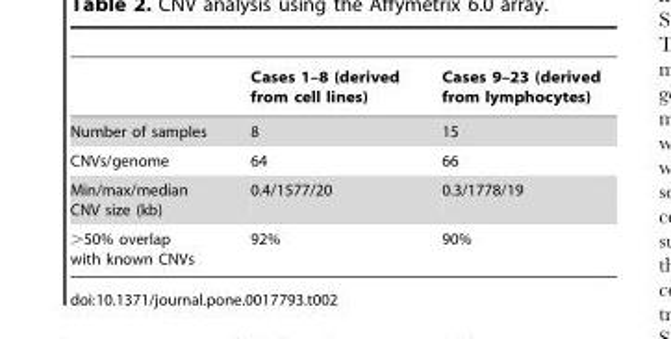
<table><thead><tr><td></td><td>Cases 1–8 (derived from cell lines)</td><td>Cases 9–23 (derived from lymphocytes)</td></tr></thead><tbody><tr><td>Number of samples</td><td>8</td><td>15</td></tr><tr><td>CNVs/genome</td><td>64</td><td>66</td></tr><tr><td>Min/max/median CNV size (kb)</td><td>0.4/1577/20</td><td>0.3/1778/19</td></tr><tr><td>&gt;50% overlap with known CNVs</td><td>92%</td><td>90%</td></tr></tbody></table>